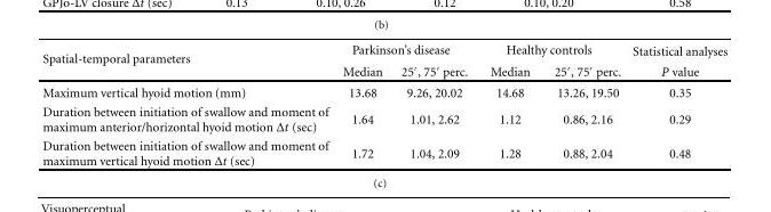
<table><tbody><tr><td rowspan="2">Spatial-temporal parameters</td><td colspan="2">Parkinson’s disease</td><td colspan="2">Healthy controls</td><td>Statistical analyses</td></tr><tr><td>Median</td><td>25′, 75′ perc.</td><td>Median</td><td>25′, 75′ perc.</td><td>P value</td></tr><tr><td>Maximum vertical hyoid motion (mm)</td><td>13.68</td><td>9.26, 20.02</td><td>14.68</td><td>13.26, 19.50</td><td>0.35</td></tr><tr><td>Duration between initiation of swallow and moment of maximum anterior/horizontal hyoid motion Δt (sec)</td><td>1.64</td><td>1.01, 2.62</td><td>1.12</td><td>0.86, 2.16</td><td>0.29</td></tr><tr><td>Duration between initiation of swallow and moment of maximum vertical hyoid motion Δt (sec)</td><td>1.72</td><td>1.04, 2.09</td><td>1.28</td><td>0.88, 2.04</td><td>0.48</td></tr></tbody></table>